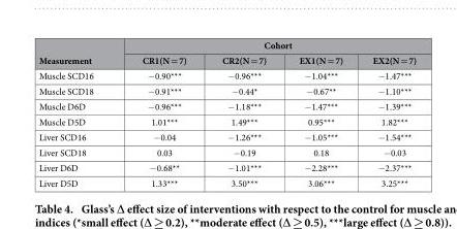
<table><thead><tr><td rowspan="2">Measurement</td><td colspan="4">Cohort</td></tr><tr><td>CR1(N = 7)</td><td>CR2(N = 7)</td><td>EX1(N = 7)</td><td>EX2(N = 7)</td></tr></thead><tbody><tr><td>Muscle SCD16</td><td>− 0.90***</td><td>− 0.96***</td><td>− 1.04***</td><td>− 1.47***</td></tr><tr><td>Muscle SCD18</td><td>− 0.91***</td><td>− 0.44*</td><td>− 0.67**</td><td>− 1.10***</td></tr><tr><td>Muscle D6D</td><td>− 0.96***</td><td>− 1.18***</td><td>− 1.47***</td><td>− 1.39***</td></tr><tr><td>Muscle D5D</td><td>1.01***</td><td>1.49***</td><td>0.95***</td><td>1.82***</td></tr><tr><td>Liver SCD16</td><td>− 0.04</td><td>− 1.26***</td><td>− 1.05***</td><td>− 1.54***</td></tr><tr><td>Liver SCD18</td><td>0.03</td><td>− 0.19</td><td>0.18</td><td>− 0.03</td></tr><tr><td>Liver D6D</td><td>− 0.68**</td><td>− 1.01***</td><td>− 2.28***</td><td>− 2.37***</td></tr><tr><td>Liver D5D</td><td>1.33***</td><td>3.50***</td><td>3.06***</td><td>3.25***</td></tr></tbody></table>